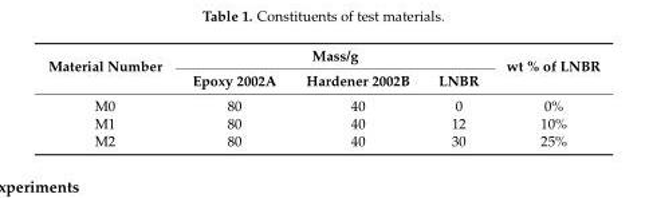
<table><thead><tr><td rowspan="2">Material Number</td><td colspan="3">Mass/g</td><td rowspan="2">wt % of LNBR</td></tr><tr><td>Epoxy 2002A</td><td>Hardener 2002B</td><td>LNBR</td></tr></thead><tbody><tr><td>M0</td><td>80</td><td>40</td><td>0</td><td>0%</td></tr><tr><td>M1</td><td>80</td><td>40</td><td>12</td><td>10%</td></tr><tr><td>M2</td><td>80</td><td>40</td><td>30</td><td>25%</td></tr></tbody></table>